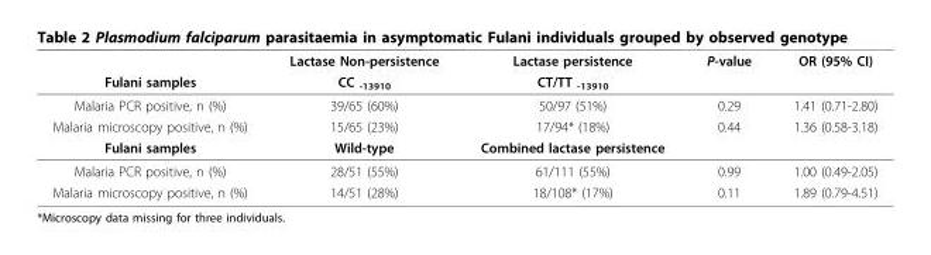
<table><thead><tr><td rowspan="2">Fulani samples</td><td rowspan="2">Lactase Non-persistence CC <sub>-13910</sub></td><td rowspan="2">Lactase persistence CT/TT <sub>-13910</sub></td><td rowspan="2">P-value</td><td rowspan="2">OR (95% CI)</td></tr><tr></tr></thead><tbody><tr><td>Malaria PCR positive, n (%)</td><td>39/65 (60%)</td><td>50/97 (51%)</td><td>0.29</td><td>1.41 (0.71-2.80)</td></tr><tr><td>Malaria microscopy positive, n (%)</td><td>15/65 (23%)</td><td>17/94* (18%)</td><td>0.44</td><td>1.36 (0.58-3.18)</td></tr><tr><td>Fulani samples</td><td>Wild-type</td><td>Combined lactase persistence</td><td></td><td></td></tr><tr><td>Malaria PCR positive, n (%)</td><td>28/51 (55%)</td><td>61/111 (55%)</td><td>0.99</td><td>1.00 (0.49-2.05)</td></tr><tr><td>Malaria microscopy positive, n (%)</td><td>14/51 (28%)</td><td>18/108* (17%)</td><td>0.11</td><td>1.89 (0.79-4.51)</td></tr></tbody></table>